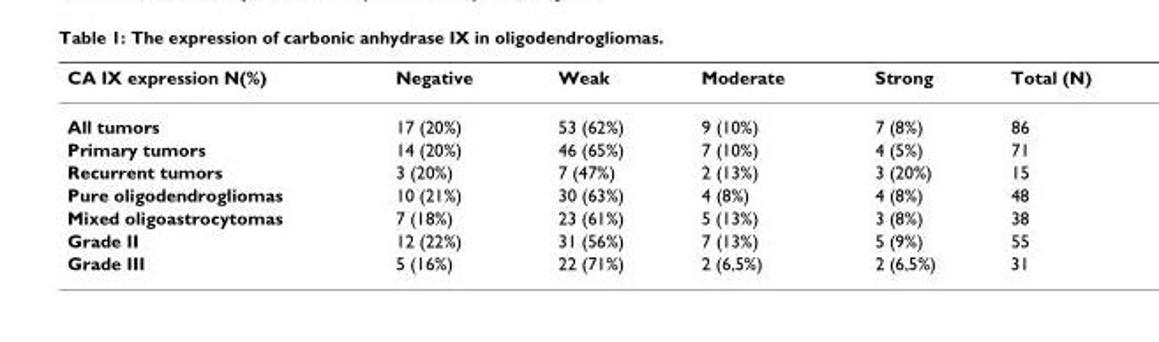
<table><thead><tr><td>CA IX expression N(%)</td><td>Negative</td><td>Weak</td><td>Moderate</td><td>Strong</td><td>Total (N)</td></tr></thead><tbody><tr><td>All tumors</td><td>17 (20%)</td><td>53 (62%)</td><td>9 (10%)</td><td>7 (8%)</td><td>86</td></tr><tr><td>Primary tumors</td><td>14 (20%)</td><td>46 (65%)</td><td>7 (10%)</td><td>4 (5%)</td><td>71</td></tr><tr><td>Recurrent tumors</td><td>3 (20%)</td><td>7 (47%)</td><td>2 (13%)</td><td>3 (20%)</td><td>15</td></tr><tr><td>Pure oligodendrogliomas</td><td>10 (21%)</td><td>30 (63%)</td><td>4 (8%)</td><td>4 (8%)</td><td>48</td></tr><tr><td>Mixed oligoastrocytomas</td><td>7 (18%)</td><td>23 (61%)</td><td>5 (13%)</td><td>3 (8%)</td><td>38</td></tr><tr><td>Grade II</td><td>12 (22%)</td><td>31 (56%)</td><td>7 (13%)</td><td>5 (9%)</td><td>55</td></tr><tr><td>Grade III</td><td>5 (16%)</td><td>22 (71%)</td><td>2 (6,5%)</td><td>2 (6,5%)</td><td>31</td></tr></tbody></table>